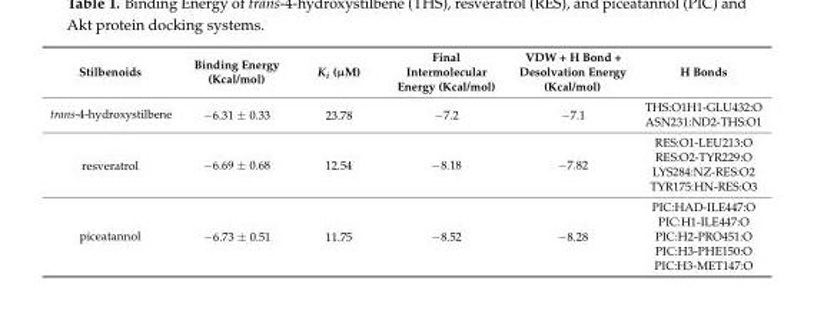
<table><thead><tr><td>Stilbenoids</td><td>Binding Energy (Kcal/mol)</td><td>K<sub>i</sub> (µM)</td><td>Final Intermolecular Energy (Kcal/mol)</td><td>VDW + H Bond + Desolvation Energy (Kcal/mol)</td><td>H Bonds</td></tr></thead><tbody><tr><td rowspan="2">trans-4-hydroxystilbene</td><td rowspan="2">−6.31 ± 0.33</td><td rowspan="2">23.78</td><td rowspan="2">−7.2</td><td rowspan="2">−7.1</td><td>THS:O1H1-GLU432:O</td></tr><tr><td>ASN231:ND2-THS:O1</td></tr><tr><td rowspan="4">resveratrol</td><td rowspan="4">−6.69 ± 0.68</td><td rowspan="4">12.54</td><td rowspan="4">−8.18</td><td rowspan="4">−7.82</td><td>RES:O1-LEU213:O</td></tr><tr><td>RES:O2-TYR229:O</td></tr><tr><td>LYS284:NZ-RES:O2</td></tr><tr><td>TYR175:HN-RES:O3</td></tr><tr><td rowspan="5">piceatannol</td><td rowspan="5">−6.73 ± 0.51</td><td rowspan="5">11.75</td><td rowspan="5">−8.52</td><td rowspan="5">−8.28</td><td>PIC:HAD-ILE447:O</td></tr><tr><td>PIC:H1-ILE447:O</td></tr><tr><td>PIC:H2-PRO451:O</td></tr><tr><td>PIC:H3-PHE150:O</td></tr><tr><td>PIC:H3-MET147:O</td></tr></tbody></table>